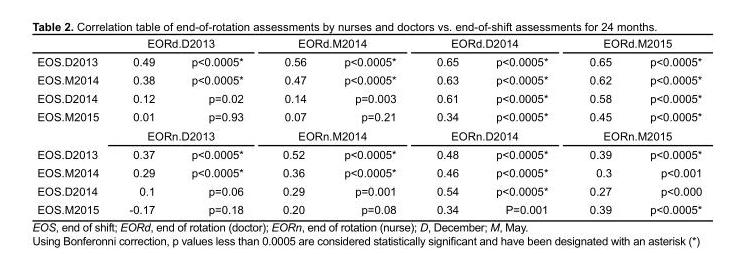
<table><thead><tr><td rowspan="2">EOS.D2013</td><td colspan="2">EORd.D2013</td><td colspan="2">EORd.M2014</td><td colspan="2">EORd.D2014</td><td colspan="2">EORd.M2015</td></tr><tr><td>0.49</td><td>p&lt;0.0005*</td><td>0.56</td><td>p&lt;0.0005*</td><td>0.65</td><td>p&lt;0.0005*</td><td>0.65</td><td>p&lt;0.0005*</td></tr></thead><tbody><tr><td>EOS.M2014</td><td>0.38</td><td>p&lt;0.0005*</td><td>0.47</td><td>p&lt;0.0005*</td><td>0.63</td><td>p&lt;0.0005*</td><td>0.62</td><td>p&lt;0.0005*</td></tr><tr><td>EOS.D2014</td><td>0.12</td><td>p=0.02</td><td>0.14</td><td>p=0.003</td><td>0.61</td><td>p&lt;0.0005*</td><td>0.58</td><td>p&lt;0.0005*</td></tr><tr><td rowspan="2">EOS.M2015</td><td>0.01</td><td>p=0.93</td><td>0.07</td><td>p=0.21</td><td>0.34</td><td>p&lt;0.0005*</td><td>0.45</td><td>p&lt;0.0005*</td></tr><tr><td colspan="2">EORn.D2013</td><td colspan="2">EORn.M2014</td><td colspan="2">EORn.D2014</td><td colspan="2">EORn.M2015</td></tr><tr><td>EOS.D2013</td><td>0.37</td><td>p&lt;0.0005*</td><td>0.52</td><td>p&lt;0.0005*</td><td>0.48</td><td>p&lt;0.0005*</td><td>0.39</td><td>p&lt;0.0005*</td></tr><tr><td>EOS.M2014</td><td>0.29</td><td>p&lt;0.0005*</td><td>0.36</td><td>p&lt;0.0005*</td><td>0.46</td><td>p&lt;0.0005*</td><td>0.3</td><td>p&lt;0.001</td></tr><tr><td>EOS.D2014</td><td>0.1</td><td>p=0.06</td><td>0.29</td><td>p=0.001</td><td>0.54</td><td>p&lt;0.0005*</td><td>0.27</td><td>p&lt;0.000</td></tr><tr><td>EOS.M2015</td><td>-0.17</td><td>p=0.18</td><td>0.20</td><td>p=0.08</td><td>0.34</td><td>P=0.001</td><td>0.39</td><td>p&lt;0.0005*</td></tr></tbody></table>